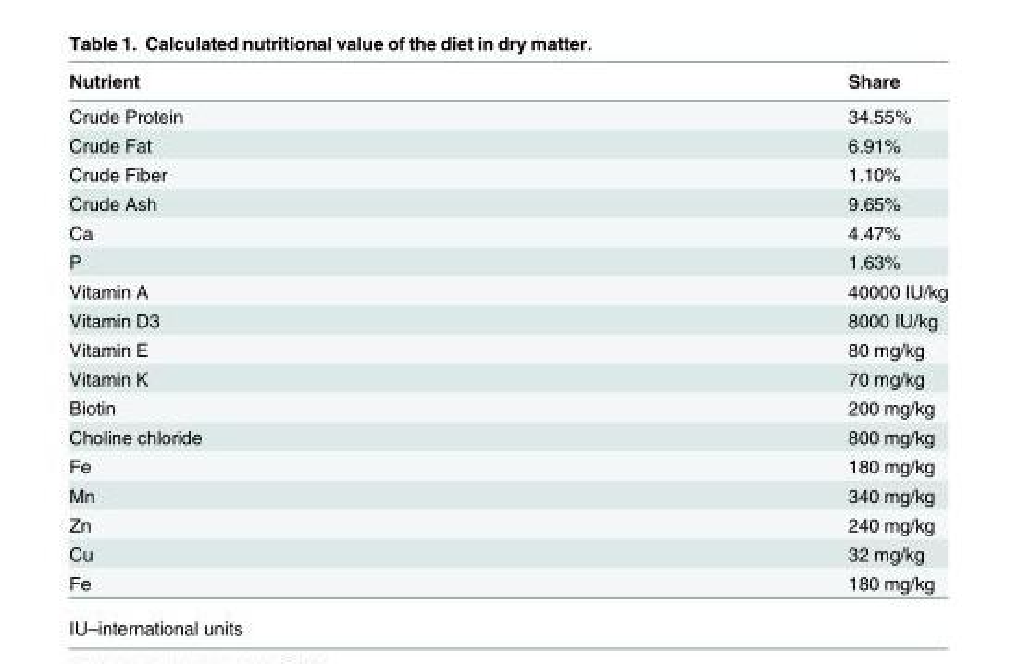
<table><thead><tr><td>Nutrient</td><td>Share</td></tr></thead><tbody><tr><td>Crude Protein</td><td>34.55%</td></tr><tr><td>Crude Fat</td><td>6.91%</td></tr><tr><td>Crude Fiber</td><td>1.10%</td></tr><tr><td>Crude Ash</td><td>9.65%</td></tr><tr><td>Ca</td><td>4.47%</td></tr><tr><td>P</td><td>1.63%</td></tr><tr><td>Vitamin A</td><td>40000 IU/kg</td></tr><tr><td>Vitamin D3</td><td>8000 IU/kg</td></tr><tr><td>Vitamin E</td><td>80 mg/kg</td></tr><tr><td>Vitamin K</td><td>70 mg/kg</td></tr><tr><td>Biotin</td><td>200 mg/kg</td></tr><tr><td>Choline chloride</td><td>800 mg/kg</td></tr><tr><td>Fe</td><td>180 mg/kg</td></tr><tr><td>Mn</td><td>340 mg/kg</td></tr><tr><td>Zn</td><td>240 mg/kg</td></tr><tr><td>Cu</td><td>32 mg/kg</td></tr><tr><td>Fe</td><td>180 mg/kg</td></tr></tbody></table>